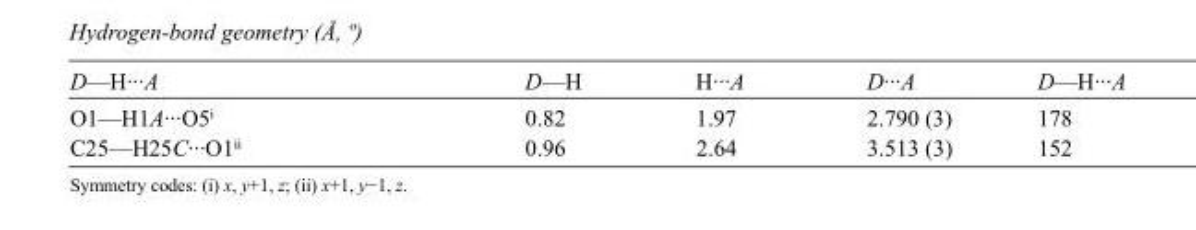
<table><tbody><tr><td>D—H···A</td><td>D—H</td><td>H···A</td><td>D···A</td><td>D—H···A</td></tr><tr><td>O1—H1A···O5<sup>i</sup></td><td>0.82</td><td>1.97</td><td>2.790 (3)</td><td>178</td></tr><tr><td>C25—H25C···O1<sup>ii</sup></td><td>0.96</td><td>2.64</td><td>3.513 (3)</td><td>152</td></tr></tbody></table>